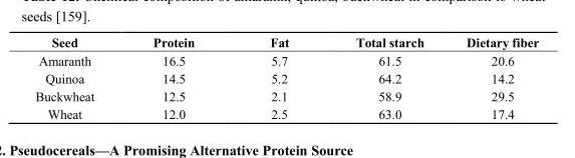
<table><thead><tr><td>Seed</td><td>Protein</td><td>Fat</td><td>Total starch</td><td>Dietary fiber</td></tr></thead><tbody><tr><td>Amaranth</td><td>16.5</td><td>5.7</td><td>61.5</td><td>20.6</td></tr><tr><td>Quinoa</td><td>14.5</td><td>5.2</td><td>64.2</td><td>14.2</td></tr><tr><td>Buckwheat</td><td>12.5</td><td>2.1</td><td>58.9</td><td>29.5</td></tr><tr><td>Wheat</td><td>12.0</td><td>2.5</td><td>63.0</td><td>17.4</td></tr></tbody></table>